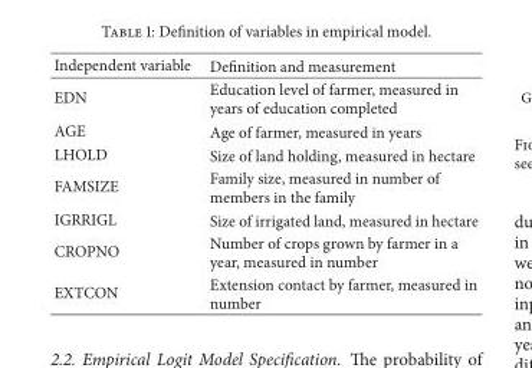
<table><thead><tr><td>Independent variable</td><td>Definition and measurement</td></tr></thead><tbody><tr><td>EDN</td><td>Education level of farmer, measured in years of education completed</td></tr><tr><td>AGE</td><td>Age of farmer, measured in years</td></tr><tr><td>LHOLD</td><td>Size of land holding, measured in hectare</td></tr><tr><td>FAMSIZE</td><td>Family size, measured in number of members in the family</td></tr><tr><td>IGRRIGL</td><td>Size of irrigated land, measured in hectare</td></tr><tr><td>CROPNO</td><td>Number of crops grown by farmer in a year, measured in number</td></tr><tr><td>EXTCON</td><td>Extension contact by farmer, measured in number</td></tr></tbody></table>